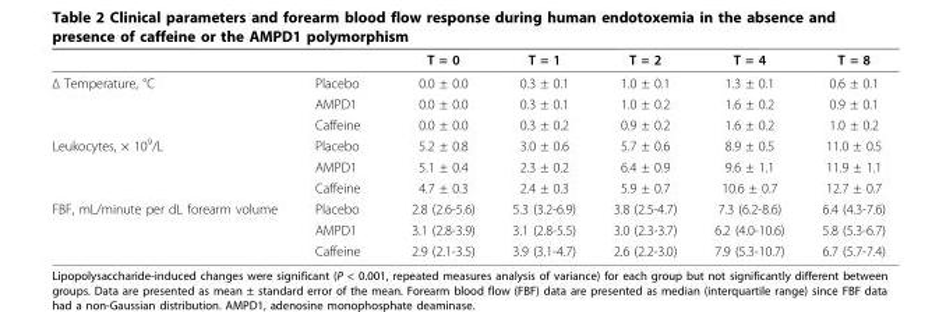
<table><thead><tr><td></td><td></td><td>T = 0</td><td>T = 1</td><td>T = 2</td><td>T = 4</td><td>T = 8</td></tr></thead><tbody><tr><td rowspan="3">Δ Temperature, °C</td><td>Placebo</td><td>0.0 ± 0.0</td><td>0.3 ± 0.1</td><td>1.0 ± 0.1</td><td>1.3 ± 0.1</td><td>0.6 ± 0.1</td></tr><tr><td>AMPD1</td><td>0.0 ± 0.0</td><td>0.3 ± 0.1</td><td>1.0 ± 0.2</td><td>1.6 ± 0.2</td><td>0.9 ± 0.1</td></tr><tr><td>Caffeine</td><td>0.0 ± 0.0</td><td>0.3 ± 0.2</td><td>0.9 ± 0.2</td><td>1.6 ± 0.2</td><td>1.0 ± 0.2</td></tr><tr><td rowspan="3">Leukocytes, × 10<sup>9</sup>/L</td><td>Placebo</td><td>5.2 ± 0.8</td><td>3.0 ± 0.6</td><td>5.7 ± 0.6</td><td>8.9 ± 0.5</td><td>11.0 ± 0.5</td></tr><tr><td>AMPD1</td><td>5.1 ± 0.4</td><td>2.3 ± 0.2</td><td>6.4 ± 0.9</td><td>9.6 ± 1.1</td><td>11.9 ± 1.1</td></tr><tr><td>Caffeine</td><td>4.7 ± 0.3</td><td>2.4 ± 0.3</td><td>5.9 ± 0.7</td><td>10.6 ± 0.7</td><td>12.7 ± 0.7</td></tr><tr><td rowspan="3">FBF, mL/minute per dL forearm volume</td><td>Placebo</td><td>2.8 (2.6-5.6)</td><td>5.3 (3.2-6.9)</td><td>3.8 (2.5-4.7)</td><td>7.3 (6.2-8.6)</td><td>6.4 (4.3-7.6)</td></tr><tr><td>AMPD1</td><td>3.1 (2.8-3.9)</td><td>3.1 (2.8-5.5)</td><td>3.0 (2.3-3.7)</td><td>6.2 (4.0-10.6)</td><td>5.8 (5.3-6.7)</td></tr><tr><td>Caffeine</td><td>2.9 (2.1-3.5)</td><td>3.9 (3.1-4.7)</td><td>2.6 (2.2-3.0)</td><td>7.9 (5.3-10.7)</td><td>6.7 (5.7-7.4)</td></tr></tbody></table>